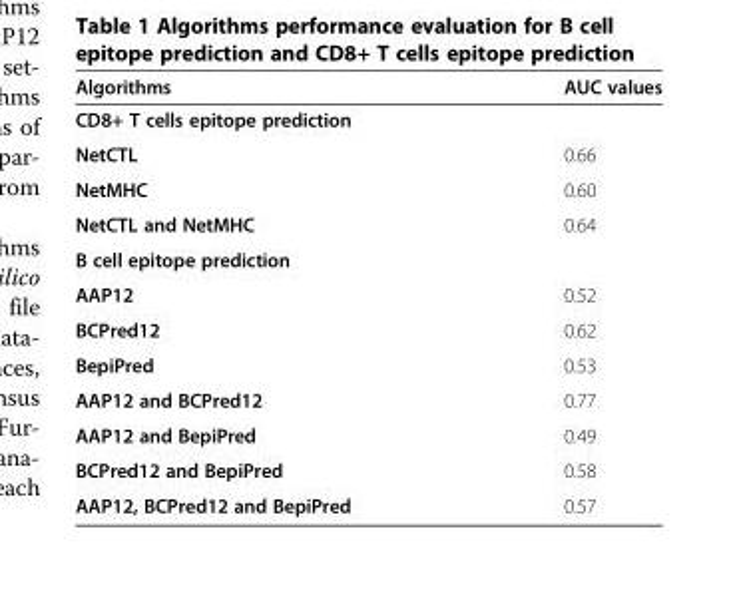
<table><thead><tr><td>Algorithms</td><td>AUC values</td></tr></thead><tbody><tr><td colspan="2">CD8+ T cells epitope prediction</td></tr><tr><td>NetCTL</td><td>0.66</td></tr><tr><td>NetMHC</td><td>0.60</td></tr><tr><td>NetCTL and NetMHC</td><td>0.64</td></tr><tr><td colspan="2">B cell epitope prediction</td></tr><tr><td>AAP12</td><td>0.52</td></tr><tr><td>BCPred12</td><td>0.62</td></tr><tr><td>BepiPred</td><td>0.53</td></tr><tr><td>AAP12 and BCPred12</td><td>0.77</td></tr><tr><td>AAP12 and BepiPred</td><td>0.49</td></tr><tr><td>BCPred12 and BepiPred</td><td>0.58</td></tr><tr><td>AAP12, BCPred12 and BepiPred</td><td>0.57</td></tr></tbody></table>